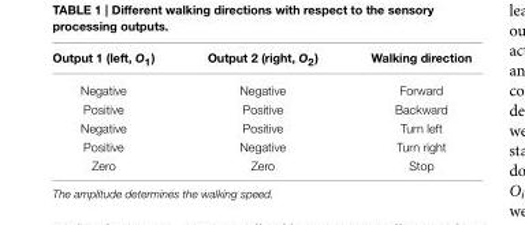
<table><thead><tr><td>Output 1 (left, O<sub>1</sub>)</td><td>Output 2 (right, O<sub>2</sub>)</td><td>Walking direction</td></tr></thead><tbody><tr><td>Negative</td><td>Negative</td><td>Forward</td></tr><tr><td>Positive</td><td>Positive</td><td>Backward</td></tr><tr><td>Negative</td><td>Positive</td><td>Turn left</td></tr><tr><td>Positive</td><td>Negative</td><td>Turn right</td></tr><tr><td>Zero</td><td>Zero</td><td>Stop</td></tr></tbody></table>